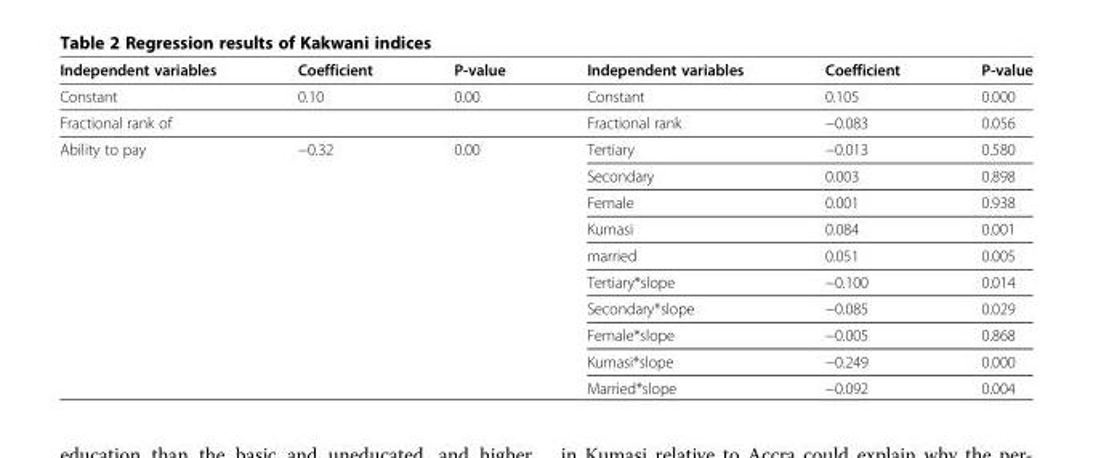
<table><thead><tr><td>Independent variables</td><td>Coefficient</td><td>P-value</td><td>Independent variables</td><td>Coefficient</td><td>P-value</td></tr></thead><tbody><tr><td>Constant</td><td>0.10</td><td>0.00</td><td>Constant</td><td>0.105</td><td>0.000</td></tr><tr><td>Fractional rank of</td><td></td><td></td><td>Fractional rank</td><td>−0.083</td><td>0.056</td></tr><tr><td rowspan="10">Ability to pay</td><td>−0.32</td><td>0.00</td><td>Tertiary</td><td>−0.013</td><td>0.580</td></tr><tr><td></td><td></td><td>Secondary</td><td>0.003</td><td>0.898</td></tr><tr><td></td><td></td><td>Female</td><td>0.001</td><td>0.938</td></tr><tr><td></td><td></td><td>Kumasi</td><td>0.084</td><td>0.001</td></tr><tr><td></td><td></td><td>married</td><td>0.051</td><td>0.005</td></tr><tr><td></td><td></td><td>Tertiary*slope</td><td>−0.100</td><td>0.014</td></tr><tr><td></td><td></td><td>Secondary*slope</td><td>−0.085</td><td>0.029</td></tr><tr><td></td><td></td><td>Female*slope</td><td>−0.005</td><td>0.868</td></tr><tr><td></td><td></td><td>Kumasi*slope</td><td>−0.249</td><td>0.000</td></tr><tr><td></td><td></td><td>Married*slope</td><td>−0.092</td><td>0.004</td></tr></tbody></table>